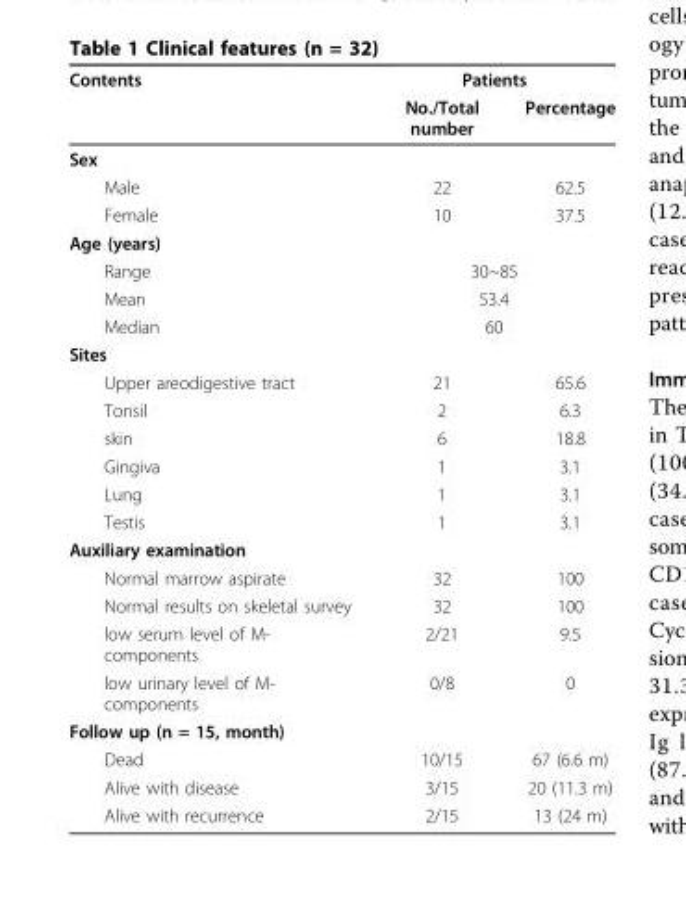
<table><thead><tr><td rowspan="2">Contents</td><td colspan="2">Patients</td></tr><tr><td>No./Total number</td><td>Percentage</td></tr></thead><tbody><tr><td colspan="3">Sex</td></tr><tr><td>Male</td><td>22</td><td>62.5</td></tr><tr><td>Female</td><td>10</td><td>37.5</td></tr><tr><td colspan="3">Age (years)</td></tr><tr><td>Range</td><td colspan="2">30~85</td></tr><tr><td>Mean</td><td colspan="2">53.4</td></tr><tr><td>Median</td><td colspan="2">60</td></tr><tr><td colspan="3">Sites</td></tr><tr><td>Upper areodigestive tract</td><td>21</td><td>65.6</td></tr><tr><td>Tonsil</td><td>2</td><td>6.3</td></tr><tr><td>skin</td><td>6</td><td>18.8</td></tr><tr><td>Gingiva</td><td>1</td><td>3.1</td></tr><tr><td>Lung</td><td>1</td><td>3.1</td></tr><tr><td>Testis</td><td>1</td><td>3.1</td></tr><tr><td colspan="3">Auxiliary examination</td></tr><tr><td>Normal marrow aspirate</td><td>32</td><td>100</td></tr><tr><td>Normal results on skeletal survey</td><td>32</td><td>100</td></tr><tr><td>low serum level of M- components</td><td>2/21</td><td>9.5</td></tr><tr><td>low urinary level of M- components</td><td>0/8</td><td>0</td></tr><tr><td colspan="3">Follow up (n = 15, month)</td></tr><tr><td>Dead</td><td>10/15</td><td>67 (6.6 m)</td></tr><tr><td>Alive with disease</td><td>3/15</td><td>20 (11.3 m)</td></tr><tr><td>Alive with recurrence</td><td>2/15</td><td>13 (24 m)</td></tr></tbody></table>